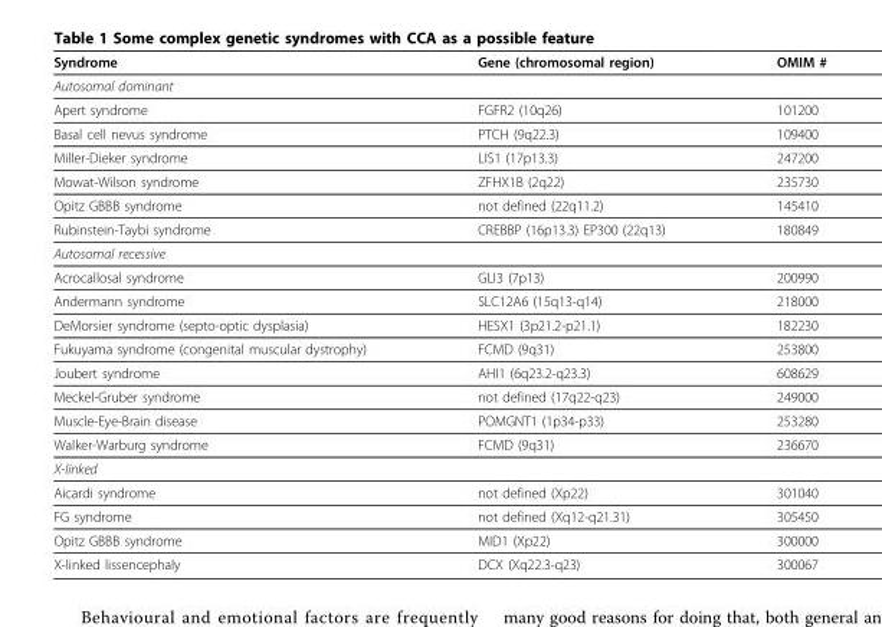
<table><thead><tr><td>Syndrome</td><td>Gene (chromosomal region)</td><td>OMIM #</td></tr></thead><tbody><tr><td colspan="3">Autosomal dominant</td></tr><tr><td>Apert syndrome</td><td>FGFR2 (10q26)</td><td>101200</td></tr><tr><td>Basal cell nevus syndrome</td><td>PTCH (9q22.3)</td><td>109400</td></tr><tr><td>Miller-Dieker syndrome</td><td>LIS1 (17p13.3)</td><td>247200</td></tr><tr><td>Mowat-Wilson syndrome</td><td>ZFHX1B (2q22)</td><td>235730</td></tr><tr><td>Opitz GBBB syndrome</td><td>not defined (22q11.2)</td><td>145410</td></tr><tr><td>Rubinstein-Taybi syndrome</td><td>CREBBP (16p13.3) EP300 (22q13)</td><td>180849</td></tr><tr><td colspan="3">Autosomal recessive</td></tr><tr><td>Acrocallosal syndrome</td><td>GLI3 (7p13)</td><td>200990</td></tr><tr><td>Andermann syndrome</td><td>SLC12A6 (15q13-q14)</td><td>218000</td></tr><tr><td>DeMorsier syndrome (septo-optic dysplasia)</td><td>HESX1 (3p21.2-p21.1)</td><td>182230</td></tr><tr><td>Fukuyama syndrome (congenital muscular dystrophy)</td><td>FCMD (9q31)</td><td>253800</td></tr><tr><td>Joubert syndrome</td><td>AHI1 (6q23.2-q23.3)</td><td>608629</td></tr><tr><td>Meckel-Gruber syndrome</td><td>not defined (17q22-q23)</td><td>249000</td></tr><tr><td>Muscle-Eye-Brain disease</td><td>POMGNT1 (1p34-p33)</td><td>253280</td></tr><tr><td>Walker-Warburg syndrome</td><td>FCMD (9q31)</td><td>236670</td></tr><tr><td colspan="3">X-linked</td></tr><tr><td>Aicardi syndrome</td><td>not defined (Xp22)</td><td>301040</td></tr><tr><td>FG syndrome</td><td>not defined (Xq12-q21.31)</td><td>305450</td></tr><tr><td>Opitz GBBB syndrome</td><td>MID1 (Xp22)</td><td>300000</td></tr><tr><td>X-linked lissencephaly</td><td>DCX (Xq22.3-q23)</td><td>300067</td></tr></tbody></table>